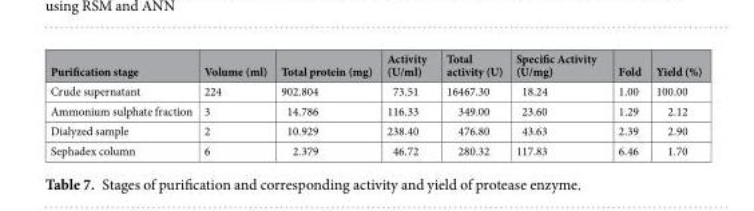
<table><thead><tr><td>Purification stage</td><td>Volume (ml)</td><td>Total protein (mg)</td><td>Activity (U/ml)</td><td>Total activity (U)</td><td>Specific Activity (U/mg)</td><td>Fold</td><td>Yield (%)</td></tr></thead><tbody><tr><td>Crude supernatant</td><td>224</td><td>902.804</td><td>73.51</td><td>16467.30</td><td>18.24</td><td>1.00</td><td>100.00</td></tr><tr><td>Ammonium sulphate fraction</td><td>3</td><td>14.786</td><td>116.33</td><td>349.00</td><td>23.60</td><td>1.29</td><td>2.12</td></tr><tr><td>Dialyzed sample</td><td>2</td><td>10.929</td><td>238.40</td><td>476.80</td><td>43.63</td><td>2.39</td><td>2.90</td></tr><tr><td>Sephadex column</td><td>6</td><td>2.379</td><td>46.72</td><td>280.32</td><td>117.83</td><td>6.46</td><td>1.70</td></tr></tbody></table>